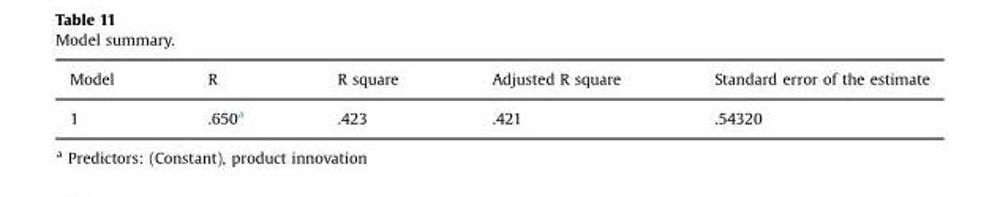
<table><thead><tr><td>Model</td><td>R</td><td>R square</td><td>Adjusted R square</td><td>Standard error of the estimate</td></tr></thead><tbody><tr><td>1</td><td>.650<sup>a</sup></td><td>.423</td><td>.421</td><td>.54320</td></tr></tbody></table>